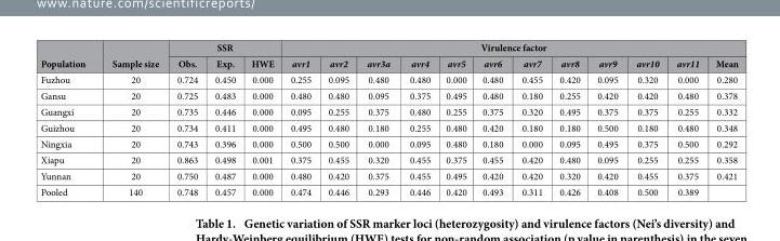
<table><thead><tr><td rowspan="2">Population</td><td rowspan="2">Sample size</td><td colspan="3">SSR</td><td colspan="12">Virulence factor</td></tr><tr><td>Obs.</td><td>Exp.</td><td>HWE</td><td>avr1</td><td>avr2</td><td>avr3a</td><td>avr4</td><td>avr5</td><td>avr6</td><td>avr7</td><td>avr8</td><td>avr9</td><td>avr10</td><td>avr11</td><td>Mean</td></tr></thead><tbody><tr><td>Fuzhou</td><td>20</td><td>0.724</td><td>0.450</td><td>0.000</td><td>0.255</td><td>0.095</td><td>0.480</td><td>0.480</td><td>0.000</td><td>0.480</td><td>0.455</td><td>0.420</td><td>0.095</td><td>0.320</td><td>0.000</td><td>0.280</td></tr><tr><td>Gansu</td><td>20</td><td>0.725</td><td>0.483</td><td>0.000</td><td>0.480</td><td>0.480</td><td>0.095</td><td>0.375</td><td>0.495</td><td>0.480</td><td>0.180</td><td>0.255</td><td>0.420</td><td>0.420</td><td>0.480</td><td>0.378</td></tr><tr><td>Guangxi</td><td>20</td><td>0.735</td><td>0.446</td><td>0.000</td><td>0.095</td><td>0.255</td><td>0.375</td><td>0.480</td><td>0.255</td><td>0.375</td><td>0.320</td><td>0.495</td><td>0.375</td><td>0.375</td><td>0.255</td><td>0.332</td></tr><tr><td>Guizhou</td><td>20</td><td>0.734</td><td>0.411</td><td>0.000</td><td>0.495</td><td>0.480</td><td>0.180</td><td>0.255</td><td>0.480</td><td>0.420</td><td>0.180</td><td>0.180</td><td>0.500</td><td>0.180</td><td>0.480</td><td>0.348</td></tr><tr><td>Ningxia</td><td>20</td><td>0.743</td><td>0.396</td><td>0.000</td><td>0.500</td><td>0.500</td><td>0.000</td><td>0.095</td><td>0.480</td><td>0.180</td><td>0.000</td><td>0.095</td><td>0.495</td><td>0.375</td><td>0.500</td><td>0.292</td></tr><tr><td>Xiapu</td><td>20</td><td>0.863</td><td>0.498</td><td>0.001</td><td>0.375</td><td>0.455</td><td>0.320</td><td>0.455</td><td>0.375</td><td>0.455</td><td>0.420</td><td>0.480</td><td>0.095</td><td>0.255</td><td>0.255</td><td>0.358</td></tr><tr><td>Yunnan</td><td>20</td><td>0.750</td><td>0.487</td><td>0.000</td><td>0.480</td><td>0.420</td><td>0.375</td><td>0.455</td><td>0.495</td><td>0.420</td><td>0.420</td><td>0.320</td><td>0.420</td><td>0.455</td><td>0.375</td><td>0.421</td></tr><tr><td>Pooled</td><td>140</td><td>0.748</td><td>0.457</td><td>0.000</td><td>0.474</td><td>0.446</td><td>0.293</td><td>0.446</td><td>0.420</td><td>0.493</td><td>0.311</td><td>0.426</td><td>0.408</td><td>0.500</td><td>0.389</td><td></td></tr></tbody></table>